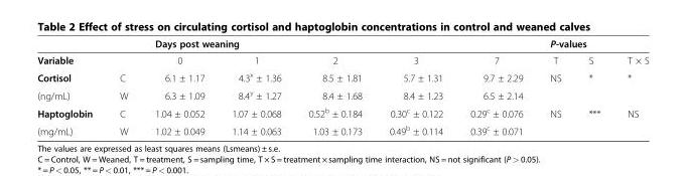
<table><thead><tr><td rowspan="2">Variable</td><td rowspan="2"></td><td colspan="5">Days post weaning</td><td colspan="3">P-values</td></tr><tr><td>0</td><td>1</td><td>2</td><td>3</td><td>7</td><td>T</td><td>S</td><td>T × S</td></tr></thead><tbody><tr><td>Cortisol</td><td>C</td><td>6.1 ± 1.17</td><td>4.3<sup>x</sup> ± 1.36</td><td>8.5 ± 1.81</td><td>5.7 ± 1.31</td><td>9.7 ± 2.29</td><td>NS</td><td>*</td><td>*</td></tr><tr><td>(ng/mL)</td><td>W</td><td>6.3 ± 1.09</td><td>8.4<sup>y</sup> ± 1.27</td><td>8.4 ± 1.68</td><td>8.4 ± 1.23</td><td>6.5 ± 2.14</td><td></td><td></td><td></td></tr><tr><td>Haptoglobin</td><td>C</td><td>1.04 ± 0.052</td><td>1.07 ± 0.068</td><td>0.52<sup>b</sup> ± 0.184</td><td>0.30<sup>c</sup> ± 0.122</td><td>0.29<sup>c</sup> ± 0.076</td><td>NS</td><td>***</td><td>NS</td></tr><tr><td>(mg/mL)</td><td>W</td><td>1.02 ± 0.049</td><td>1.14 ± 0.063</td><td>1.03 ± 0.173</td><td>0.49<sup>b</sup> ± 0.114</td><td>0.39<sup>c</sup> ± 0.071</td><td></td><td></td><td></td></tr></tbody></table>